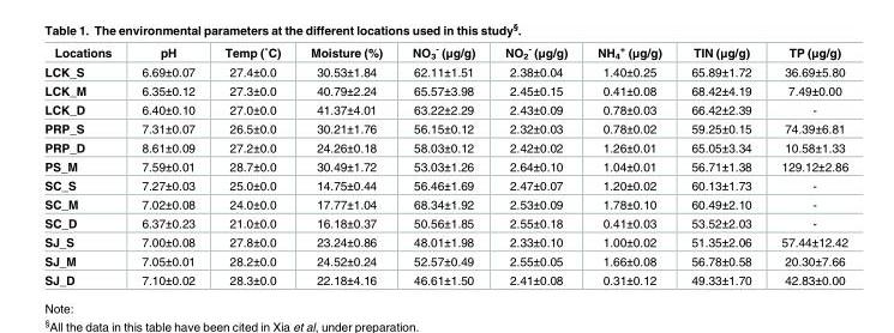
<table><thead><tr><td>Locations</td><td>pH</td><td>Temp (˚C)</td><td>Moisture (%)</td><td>NO<sub>3</sub> <sup>-</sup> (μg/g)</td><td>NO<sub>2</sub> <sup>-</sup> (μg/g)</td><td>NH<sub>4</sub> <sup>+</sup> (μg/g)</td><td>TIN (μg/g)</td><td>TP (μg/g)</td></tr></thead><tbody><tr><td>LCK_S</td><td>6.69±0.07</td><td>27.4±0.0</td><td>30.53±1.84</td><td>62.11±1.51</td><td>2.38±0.04</td><td>1.40±0.25</td><td>65.89±1.72</td><td>36.69±5.80</td></tr><tr><td>LCK_M</td><td>6.35±0.12</td><td>27.3±0.0</td><td>40.79±2.24</td><td>65.57±3.98</td><td>2.45±0.15</td><td>0.41±0.08</td><td>68.42±4.19</td><td>7.49±0.00</td></tr><tr><td>LCK_D</td><td>6.40±0.10</td><td>27.0±0.0</td><td>41.37±4.01</td><td>63.22±2.29</td><td>2.43±0.09</td><td>0.78±0.03</td><td>66.42±2.39</td><td>-</td></tr><tr><td>PRP_S</td><td>7.31±0.07</td><td>26.5±0.0</td><td>30.21±1.76</td><td>56.15±0.12</td><td>2.32±0.03</td><td>0.78±0.02</td><td>59.25±0.15</td><td>74.39±6.81</td></tr><tr><td>PRP_D</td><td>8.61±0.09</td><td>27.2±0.0</td><td>24.26±0.18</td><td>58.03±0.12</td><td>2.42±0.02</td><td>1.26±0.01</td><td>65.05±3.34</td><td>10.58±1.33</td></tr><tr><td>PS_M</td><td>7.59±0.01</td><td>28.7±0.0</td><td>30.49±1.72</td><td>53.03±1.26</td><td>2.64±0.10</td><td>1.04±0.01</td><td>56.71±1.38</td><td>129.12±2.86</td></tr><tr><td>SC_S</td><td>7.27±0.03</td><td>25.0±0.0</td><td>14.75±0.44</td><td>56.46±1.69</td><td>2.47±0.07</td><td>1.20±0.02</td><td>60.13±1.73</td><td>-</td></tr><tr><td>SC_M</td><td>7.02±0.08</td><td>24.0±0.0</td><td>17.77±1.04</td><td>68.34±1.92</td><td>2.53±0.09</td><td>1.78±0.10</td><td>60.49±2.10</td><td>-</td></tr><tr><td>SC_D</td><td>6.37±0.23</td><td>21.0±0.0</td><td>16.18±0.37</td><td>50.56±1.85</td><td>2.55±0.18</td><td>0.41±0.03</td><td>53.52±2.03</td><td>-</td></tr><tr><td>SJ_S</td><td>7.00±0.08</td><td>27.8±0.0</td><td>23.24±0.86</td><td>48.01±1.98</td><td>2.33±0.10</td><td>1.00±0.02</td><td>51.35±2.06</td><td>57.44±12.42</td></tr><tr><td>SJ_M</td><td>7.05±0.01</td><td>28.2±0.0</td><td>24.52±0.24</td><td>52.57±0.49</td><td>2.55±0.05</td><td>1.66±0.08</td><td>56.78±0.58</td><td>20.30±7.66</td></tr><tr><td>SJ_D</td><td>7.10±0.02</td><td>28.3±0.0</td><td>22.18±4.16</td><td>46.61±1.50</td><td>2.41±0.08</td><td>0.31±0.12</td><td>49.33±1.70</td><td>42.83±0.00</td></tr></tbody></table>